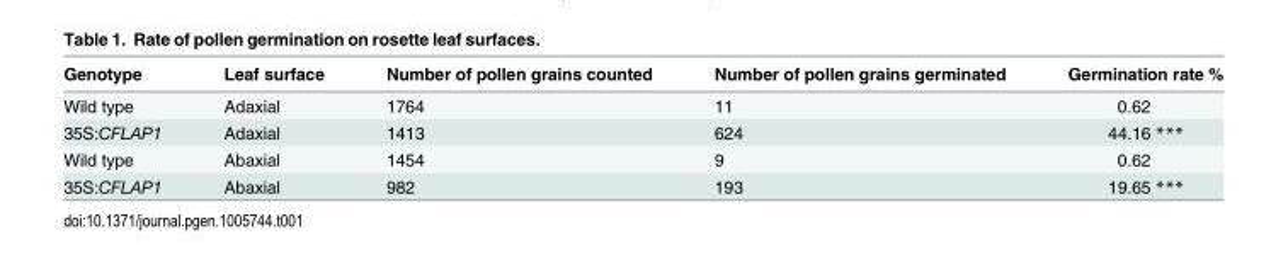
<table><thead><tr><td>Genotype</td><td>Leaf surface</td><td>Number of pollen grains counted</td><td>Number of pollen grains germinated</td><td>Germination rate %</td></tr></thead><tbody><tr><td>Wild type</td><td>Adaxial</td><td>1764</td><td>11</td><td>0.62</td></tr><tr><td>35S:CFLAP1</td><td>Adaxial</td><td>1413</td><td>624</td><td>44.16 ***</td></tr><tr><td>Wild type</td><td>Abaxial</td><td>1454</td><td>9</td><td>0.62</td></tr><tr><td>35S:CFLAP1</td><td>Abaxial</td><td>982</td><td>193</td><td>19.65 ***</td></tr></tbody></table>